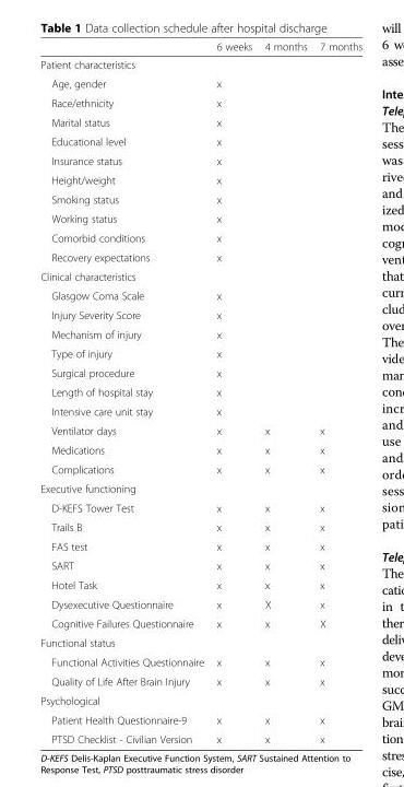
<table><thead><tr><td></td><td>6 weeks</td><td>4 months</td><td>7 months</td></tr></thead><tbody><tr><td colspan="4">Patient characteristics</td></tr><tr><td>Age, gender</td><td>x</td><td></td><td></td></tr><tr><td>Race/ethnicity</td><td>x</td><td></td><td></td></tr><tr><td>Marital status</td><td>x</td><td></td><td></td></tr><tr><td>Educational level</td><td>x</td><td></td><td></td></tr><tr><td>Insurance status</td><td>x</td><td></td><td></td></tr><tr><td>Height/weight</td><td>x</td><td></td><td></td></tr><tr><td>Smoking status</td><td>x</td><td></td><td></td></tr><tr><td>Working status</td><td>x</td><td></td><td></td></tr><tr><td>Comorbid conditions</td><td>x</td><td></td><td></td></tr><tr><td>Recovery expectations</td><td>x</td><td></td><td></td></tr><tr><td colspan="4">Clinical characteristics</td></tr><tr><td>Glasgow Coma Scale</td><td>x</td><td></td><td></td></tr><tr><td>Injury Severity Score</td><td>x</td><td></td><td></td></tr><tr><td>Mechanism of injury</td><td>x</td><td></td><td></td></tr><tr><td>Type of injury</td><td>x</td><td></td><td></td></tr><tr><td>Surgical procedure</td><td>x</td><td></td><td></td></tr><tr><td>Length of hospital stay</td><td>x</td><td></td><td></td></tr><tr><td>Intensive care unit stay</td><td>x</td><td></td><td></td></tr><tr><td>Ventilator days</td><td>x</td><td>x</td><td>x</td></tr><tr><td>Medications</td><td>x</td><td>x</td><td>x</td></tr><tr><td>Complications</td><td>x</td><td>x</td><td>x</td></tr><tr><td colspan="4">Executive functioning</td></tr><tr><td>D-KEFS Tower Test</td><td>x</td><td>x</td><td>x</td></tr><tr><td>Trails B</td><td>x</td><td>x</td><td>x</td></tr><tr><td>FAS test</td><td>x</td><td>x</td><td>x</td></tr><tr><td>SART</td><td>x</td><td>x</td><td>x</td></tr><tr><td>Hotel Task</td><td>x</td><td>x</td><td>x</td></tr><tr><td>Dysexecutive Questionnaire</td><td>x</td><td>X</td><td>x</td></tr><tr><td>Cognitive Failures Questionnaire</td><td>x</td><td>x</td><td>X</td></tr><tr><td colspan="4">Functional status</td></tr><tr><td>Functional Activities Questionnaire</td><td>x</td><td>x</td><td>x</td></tr><tr><td>Quality of Life After Brain Injury</td><td>x</td><td>x</td><td>x</td></tr><tr><td colspan="4">Psychological</td></tr><tr><td>Patient Health Questionnaire-9</td><td>x</td><td>x</td><td>x</td></tr><tr><td>PTSD Checklist - Civilian Version</td><td>x</td><td>x</td><td>x</td></tr></tbody></table>